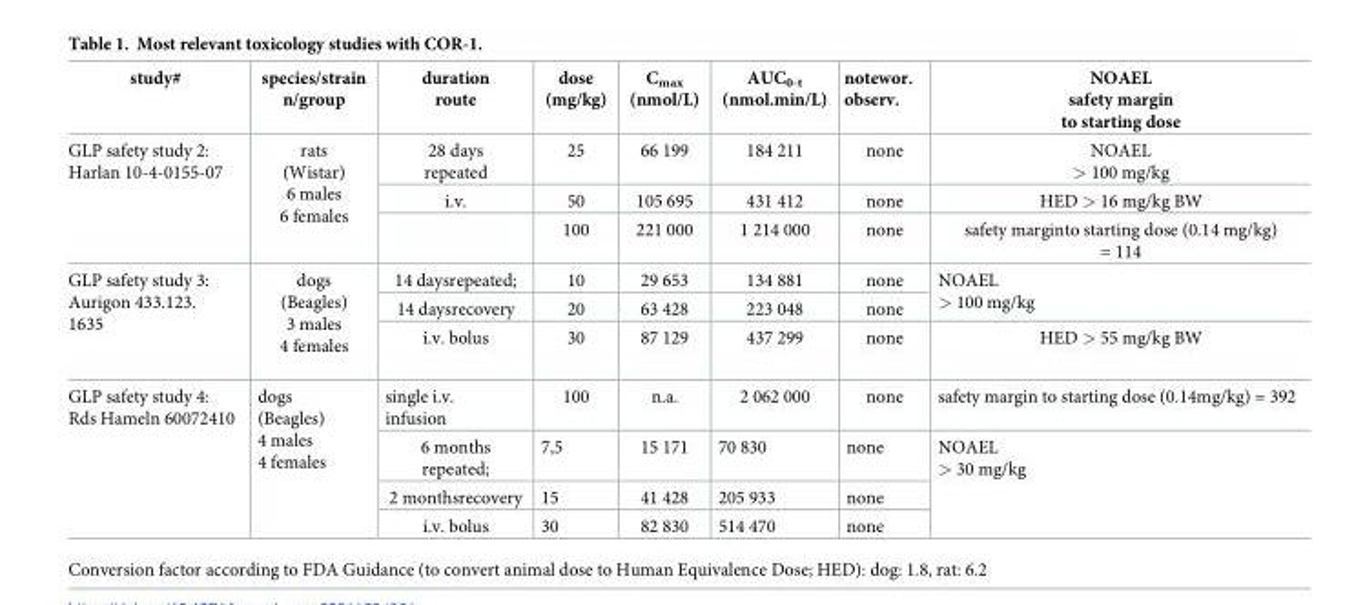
<table><thead><tr><td>study#</td><td>species/strain n/group</td><td>duration route</td><td>dose (mg/kg)</td><td>C<sub>max</sub> (nmol/L)</td><td>AUC<sub>0-t</sub> (nmol.min/L)</td><td>notewor. observ.</td><td>NOAEL safety margin to starting dose</td></tr></thead><tbody><tr><td rowspan="3">GLP safety study 2: Harlan 10-4-0155-07</td><td rowspan="3">rats (Wistar) 6 males 6 females</td><td>28 days repeated</td><td>25</td><td>66 199</td><td>184 211</td><td>none</td><td>NOAEL &gt; 100 mg/kg</td></tr><tr><td>i.v.</td><td>50</td><td>105 695</td><td>431 412</td><td>none</td><td>HED &gt; 16 mg/kg BW</td></tr><tr><td></td><td>100</td><td>221 000</td><td>1 214 000</td><td>none</td><td>safety marginto starting dose (0.14 mg/kg) = 114</td></tr><tr><td rowspan="3">GLP safety study 3: Aurigon 433.123. 1635</td><td rowspan="3">dogs (Beagles) 3 males 4 females</td><td>14 daysrepeated;</td><td>10</td><td>29 653</td><td>134 881</td><td>none</td><td rowspan="2">NOAEL &gt; 100 mg/kg</td></tr><tr><td>14 daysrecovery</td><td>20</td><td>63 428</td><td>223 048</td><td>none</td></tr><tr><td>i.v. bolus</td><td>30</td><td>87 129</td><td>437 299</td><td>none</td><td>HED &gt; 55 mg/kg BW</td></tr><tr><td rowspan="4">GLP safety study 4: Rds Hameln 60072410</td><td rowspan="4">dogs (Beagles) 4 males 4 females</td><td>single i.v. infusion</td><td>100</td><td>n.a.</td><td>2 062 000</td><td>none</td><td>safety margin to starting dose (0.14mg/kg) = 392</td></tr><tr><td>6 months repeated;</td><td>7,5</td><td>15 171</td><td>70 830</td><td>none</td><td rowspan="3">NOAEL &gt; 30 mg/kg</td></tr><tr><td>2 monthsrecovery</td><td>15</td><td>41 428</td><td>205 933</td><td>none</td></tr><tr><td>i.v. bolus</td><td>30</td><td>82 830</td><td>514 470</td><td>none</td></tr></tbody></table>